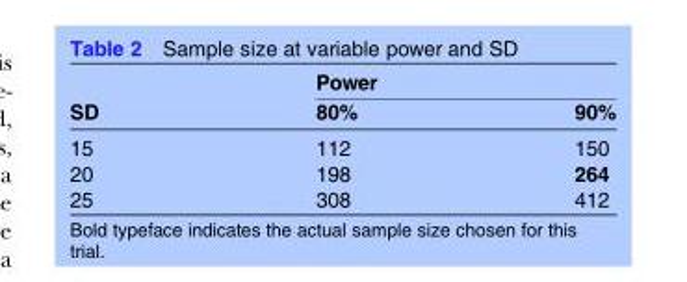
<table><thead><tr><td rowspan="2">SD</td><td colspan="2">Power</td></tr><tr><td>80%</td><td>90%</td></tr></thead><tbody><tr><td>15</td><td>112</td><td>150</td></tr><tr><td>20</td><td>198</td><td>264</td></tr><tr><td>25</td><td>308</td><td>412</td></tr></tbody></table>